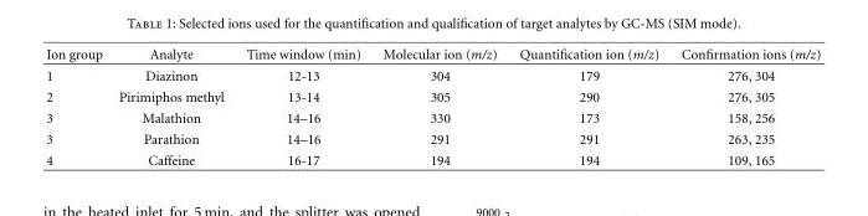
<table><thead><tr><td>Ion group</td><td>Analyte</td><td>Time window (min)</td><td>Molecular ion (m/z)</td><td>Quantification ion (m/z)</td><td>Confirmation ions (m/z)</td></tr></thead><tbody><tr><td>1</td><td>Diazinon</td><td>12-13</td><td>304</td><td>179</td><td>276, 304</td></tr><tr><td>2</td><td>Pirimiphos methyl</td><td>13-14</td><td>305</td><td>290</td><td>276, 305</td></tr><tr><td>3</td><td>Malathion</td><td>14–16</td><td>330</td><td>173</td><td>158, 256</td></tr><tr><td>3</td><td>Parathion</td><td>14–16</td><td>291</td><td>291</td><td>263, 235</td></tr><tr><td>4</td><td>Caffeine</td><td>16-17</td><td>194</td><td>194</td><td>109, 165</td></tr></tbody></table>